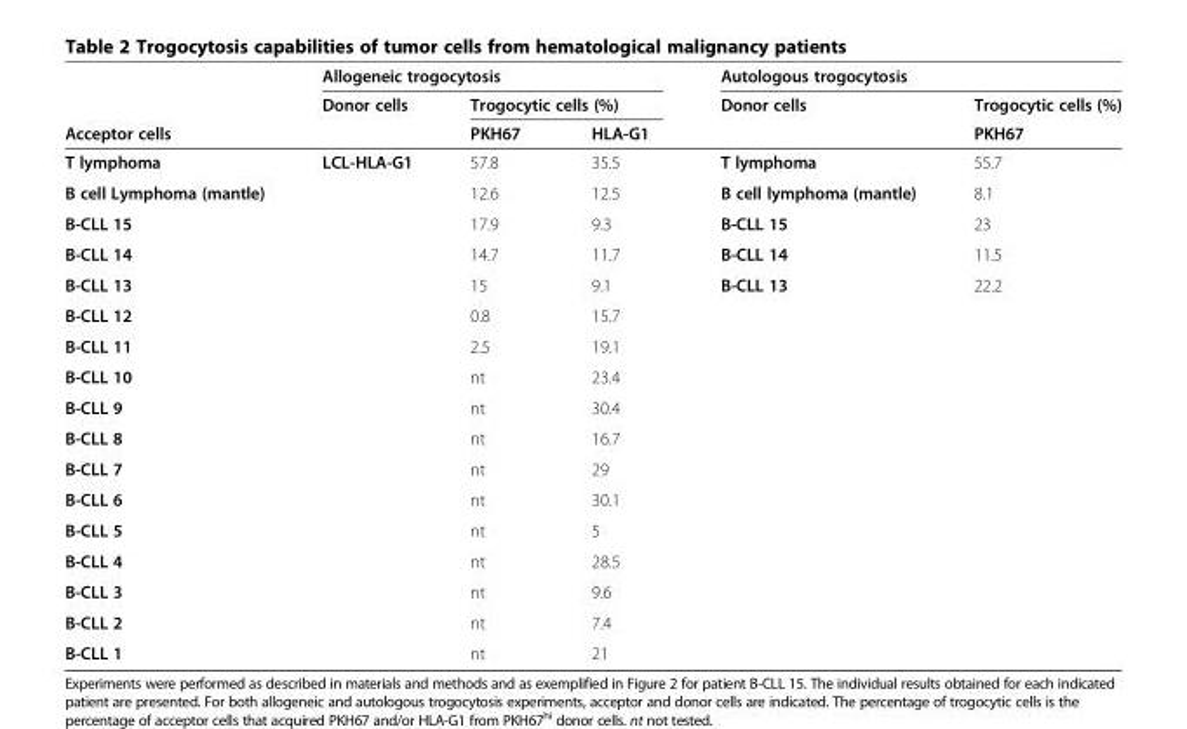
<table><thead><tr><td rowspan="3">Acceptor cells</td><td colspan="3">Allogeneic trogocytosis</td><td colspan="2">Autologous trogocytosis</td></tr><tr><td rowspan="2">Donor cells</td><td colspan="2">Trogocytic cells (%)</td><td rowspan="2">Donor cells</td><td rowspan="2">Trogocytic cells (%) PKH67</td></tr><tr><td>PKH67</td><td>HLA-G1</td></tr></thead><tbody><tr><td>T lymphoma</td><td rowspan="17">LCL-HLA-G1</td><td>57.8</td><td>35.5</td><td>T lymphoma</td><td>55.7</td></tr><tr><td>B cell Lymphoma (mantle)</td><td>12.6</td><td>12.5</td><td>B cell lymphoma (mantle)</td><td>8.1</td></tr><tr><td>B-CLL 15</td><td>17.9</td><td>9.3</td><td>B-CLL 15</td><td>23</td></tr><tr><td>B-CLL 14</td><td>14.7</td><td>11.7</td><td>B-CLL 14</td><td>11.5</td></tr><tr><td>B-CLL 13</td><td>15</td><td>9.1</td><td>B-CLL 13</td><td>22.2</td></tr><tr><td>B-CLL 12</td><td>0.8</td><td>15.7</td><td></td><td></td></tr><tr><td>B-CLL 11</td><td>2.5</td><td>19.1</td><td></td><td></td></tr><tr><td>B-CLL 10</td><td>nt</td><td>23.4</td><td></td><td></td></tr><tr><td>B-CLL 9</td><td>nt</td><td>30.4</td><td></td><td></td></tr><tr><td>B-CLL 8</td><td>nt</td><td>16.7</td><td></td><td></td></tr><tr><td>B-CLL 7</td><td>nt</td><td>29</td><td></td><td></td></tr><tr><td>B-CLL 6</td><td>nt</td><td>30.1</td><td></td><td></td></tr><tr><td>B-CLL 5</td><td>nt</td><td>5</td><td></td><td></td></tr><tr><td>B-CLL 4</td><td>nt</td><td>28.5</td><td></td><td></td></tr><tr><td>B-CLL 3</td><td>nt</td><td>9.6</td><td></td><td></td></tr><tr><td>B-CLL 2</td><td>nt</td><td>7.4</td><td></td><td></td></tr><tr><td>B-CLL 1</td><td>nt</td><td>21</td><td></td><td></td></tr></tbody></table>